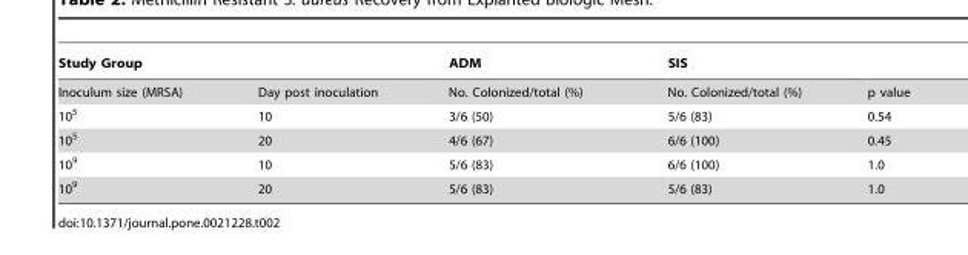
<table><thead><tr><td>Study Group</td><td></td><td>ADM</td><td>SIS</td><td></td></tr></thead><tbody><tr><td>Inoculum size (MRSA)</td><td>Day post inoculation</td><td>No. Colonized/total (%)</td><td>No. Colonized/total (%)</td><td>p value</td></tr><tr><td>10<sup>5</sup></td><td>10</td><td>3/6 (50)</td><td>5/6 (83)</td><td>0.54</td></tr><tr><td>10<sup>5</sup></td><td>20</td><td>4/6 (67)</td><td>6/6 (100)</td><td>0.45</td></tr><tr><td>10<sup>9</sup></td><td>10</td><td>5/6 (83)</td><td>6/6 (100)</td><td>1.0</td></tr><tr><td>10<sup>9</sup></td><td>20</td><td>5/6 (83)</td><td>5/6 (83)</td><td>1.0</td></tr></tbody></table>